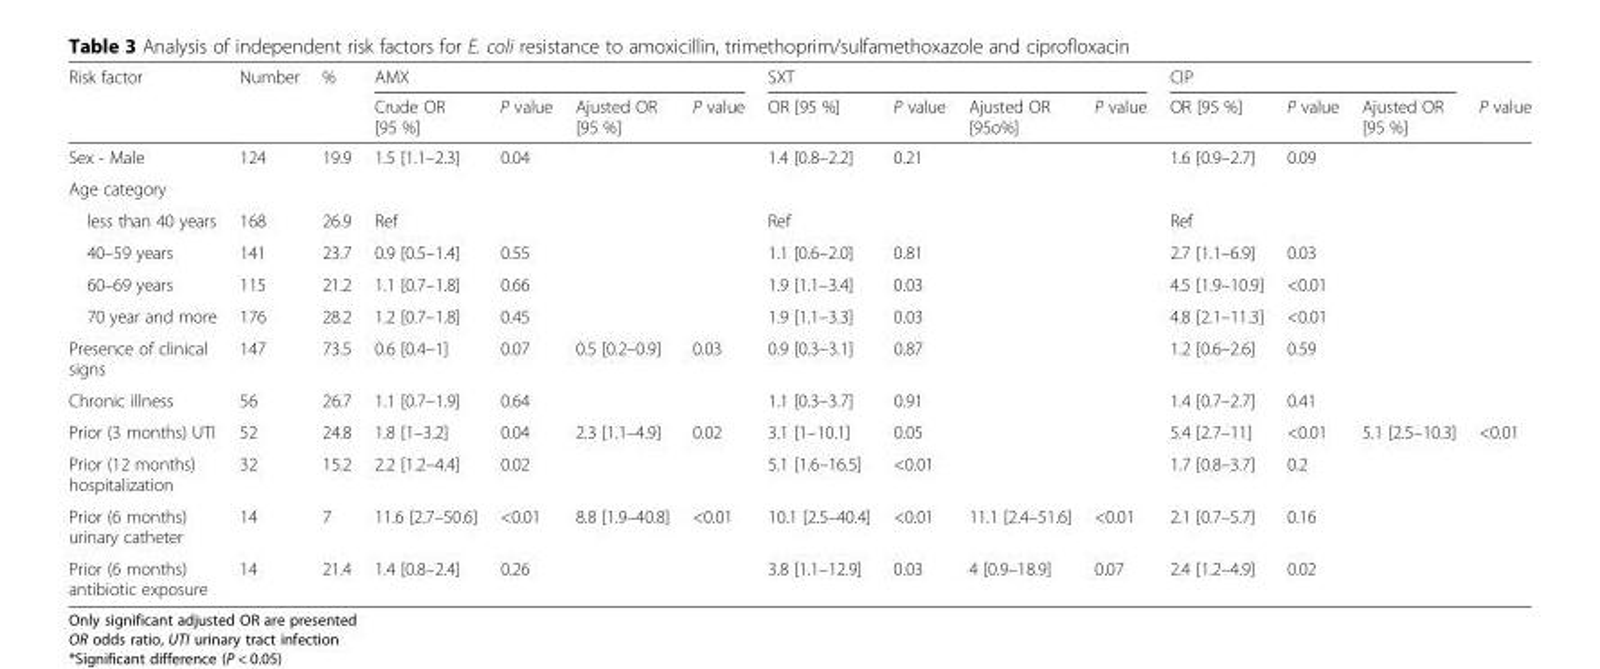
<table><thead><tr><td rowspan="2">Risk factor</td><td rowspan="2">Number</td><td rowspan="2">%</td><td colspan="4">AMX</td><td colspan="4">SXT</td><td colspan="3">CIP</td><td rowspan="2">P value</td></tr><tr><td>Crude OR [95 %]</td><td>P value</td><td>Ajusted OR [95 %]</td><td>P value</td><td>OR [95 %]</td><td>P value</td><td>Ajusted OR [95o%]</td><td>P value</td><td>OR [95 %]</td><td>P value</td><td>Ajusted OR [95 %]</td></tr></thead><tbody><tr><td>Sex - Male</td><td>124</td><td>19.9</td><td>1.5 [1.1–2.3]</td><td>0.04</td><td></td><td></td><td>1.4 [0.8–2.2]</td><td>0.21</td><td></td><td></td><td>1.6 [0.9–2.7]</td><td>0.09</td><td></td><td></td></tr><tr><td colspan="15">Age category</td></tr><tr><td>less than 40 years</td><td>168</td><td>26.9</td><td>Ref</td><td></td><td></td><td></td><td>Ref</td><td></td><td></td><td></td><td>Ref</td><td></td><td></td><td></td></tr><tr><td>40–59 years</td><td>141</td><td>23.7</td><td>0.9 [0.5–1.4]</td><td>0.55</td><td></td><td></td><td>1.1 [0.6–2.0]</td><td>0.81</td><td></td><td></td><td>2.7 [1.1–6.9]</td><td>0.03</td><td></td><td></td></tr><tr><td>60–69 years</td><td>115</td><td>21.2</td><td>1.1 [0.7–1.8]</td><td>0.66</td><td></td><td></td><td>1.9 [1.1–3.4]</td><td>0.03</td><td></td><td></td><td>4.5 [1.9–10.9]</td><td>&lt;0.01</td><td></td><td></td></tr><tr><td>70 year and more</td><td>176</td><td>28.2</td><td>1.2 [0.7–1.8]</td><td>0.45</td><td></td><td></td><td>1.9 [1.1–3.3]</td><td>0.03</td><td></td><td></td><td>4.8 [2.1–11.3]</td><td>&lt;0.01</td><td></td><td></td></tr><tr><td>Presence of clinical signs</td><td>147</td><td>73.5</td><td>0.6 [0.4–1]</td><td>0.07</td><td>0.5 [0.2–0.9]</td><td>0.03</td><td>0.9 [0.3–3.1]</td><td>0.87</td><td></td><td></td><td>1.2 [0.6–2.6]</td><td>0.59</td><td></td><td></td></tr><tr><td>Chronic illness</td><td>56</td><td>26.7</td><td>1.1 [0.7–1.9]</td><td>0.64</td><td></td><td></td><td>1.1 [0.3–3.7]</td><td>0.91</td><td></td><td></td><td>1.4 [0.7–2.7]</td><td>0.41</td><td></td><td></td></tr><tr><td>Prior (3 months) UTI</td><td>52</td><td>24.8</td><td>1.8 [1–3.2]</td><td>0.04</td><td>2.3 [1.1–4.9]</td><td>0.02</td><td>3.1 [1–10.1]</td><td>0.05</td><td></td><td></td><td>5.4 [2.7–11]</td><td>&lt;0.01</td><td>5.1 [2.5–10.3]</td><td>&lt;0.01</td></tr><tr><td>Prior (12 months) hospitalization</td><td>32</td><td>15.2</td><td>2.2 [1.2–4.4]</td><td>0.02</td><td></td><td></td><td>5.1 [1.6–16.5]</td><td>&lt;0.01</td><td></td><td></td><td>1.7 [0.8–3.7]</td><td>0.2</td><td></td><td></td></tr><tr><td>Prior (6 months) urinary catheter</td><td>14</td><td>7</td><td>11.6 [2.7–50.6]</td><td>&lt;0.01</td><td>8.8 [1.9–40.8]</td><td>&lt;0.01</td><td>10.1 [2.5–40.4]</td><td>&lt;0.01</td><td>11.1 [2.4–51.6]</td><td>&lt;0.01</td><td>2.1 [0.7–5.7]</td><td>0.16</td><td></td><td></td></tr><tr><td>Prior (6 months) antibiotic exposure</td><td>14</td><td>21.4</td><td>1.4 [0.8–2.4]</td><td>0.26</td><td></td><td></td><td>3.8 [1.1–12.9]</td><td>0.03</td><td>4 [0.9–18.9]</td><td>0.07</td><td>2.4 [1.2–4.9]</td><td>0.02</td><td></td><td></td></tr></tbody></table>